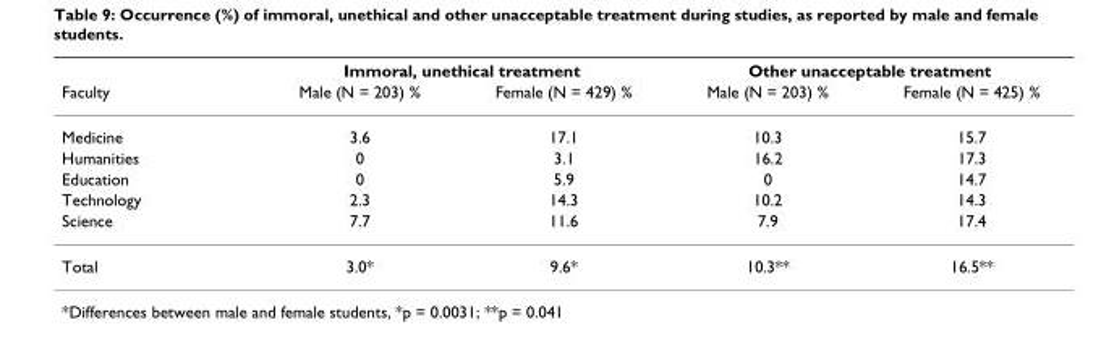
<table><thead><tr><td rowspan="2">Faculty</td><td colspan="2">Immoral, unethical treatment</td><td colspan="2">Other unacceptable treatment</td></tr><tr><td>Male (N = 203) %</td><td>Female (N = 429) %</td><td>Male (N = 203) %</td><td>Female (N = 425) %</td></tr></thead><tbody><tr><td>Medicine</td><td>3.6</td><td>17.1</td><td>10.3</td><td>15.7</td></tr><tr><td>Humanities</td><td>0</td><td>3.1</td><td>16.2</td><td>17.3</td></tr><tr><td>Education</td><td>0</td><td>5.9</td><td>0</td><td>14.7</td></tr><tr><td>Technology</td><td>2.3</td><td>14.3</td><td>10.2</td><td>14.3</td></tr><tr><td>Science</td><td>7.7</td><td>11.6</td><td>7.9</td><td>17.4</td></tr><tr><td>Total</td><td>3.0*</td><td>9.6*</td><td>10.3**</td><td>16.5**</td></tr></tbody></table>